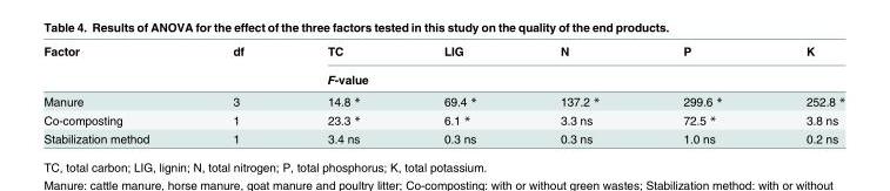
<table><thead><tr><td rowspan="2">Factor</td><td rowspan="2">df</td><td>TC</td><td>LIG</td><td>N</td><td>P</td><td>K</td></tr><tr><td colspan="5">F-value</td></tr></thead><tbody><tr><td>Manure</td><td>3</td><td>14.8 *</td><td>69.4 *</td><td>137.2 *</td><td>299.6 *</td><td>252.8 *</td></tr><tr><td>Co-composting</td><td>1</td><td>23.3 *</td><td>6.1 *</td><td>3.3 ns</td><td>72.5 *</td><td>3.8 ns</td></tr><tr><td>Stabilization method</td><td>1</td><td>3.4 ns</td><td>0.3 ns</td><td>0.3 ns</td><td>1.0 ns</td><td>0.2 ns</td></tr></tbody></table>